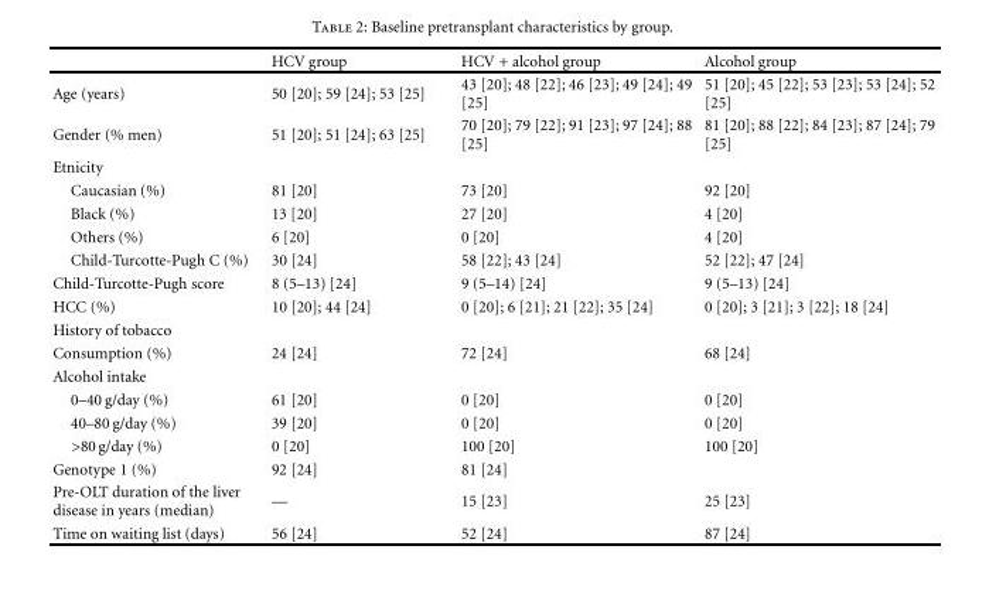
<table><thead><tr><td></td><td>HCV group</td><td>HCV + alcohol group</td><td>Alcohol group</td></tr></thead><tbody><tr><td>Age (years)</td><td>50 [20]; 59 [24]; 53 [25]</td><td>43 [20]; 48 [22]; 46 [23]; 49 [24]; 49 [25]</td><td>51 [20]; 45 [22]; 53 [23]; 53 [24]; 52 [25]</td></tr><tr><td>Gender (% men)</td><td>51 [20]; 51 [24]; 63 [25]</td><td>70 [20]; 79 [22]; 91 [23]; 97 [24]; 88 [25]</td><td>81 [20]; 88 [22]; 84 [23]; 87 [24]; 79 [25]</td></tr><tr><td colspan="4">Etnicity</td></tr><tr><td>Caucasian (%)</td><td>81 [20]</td><td>73 [20]</td><td>92 [20]</td></tr><tr><td>Black (%)</td><td>13 [20]</td><td>27 [20]</td><td>4 [20]</td></tr><tr><td>Others (%)</td><td>6 [20]</td><td>0 [20]</td><td>4 [20]</td></tr><tr><td>Child-Turcotte-Pugh C (%)</td><td>30 [24]</td><td>58 [22]; 43 [24]</td><td>52 [22]; 47 [24]</td></tr><tr><td>Child-Turcotte-Pugh score</td><td>8 (5–13) [24]</td><td>9 (5–14) [24]</td><td>9 (5–13) [24]</td></tr><tr><td>HCC (%)</td><td>10 [20]; 44 [24]</td><td>0 [20]; 6 [21]; 21 [22]; 35 [24]</td><td>0 [20]; 3 [21]; 3 [22]; 18 [24]</td></tr><tr><td colspan="4">History of tobacco</td></tr><tr><td>Consumption (%)</td><td>24 [24]</td><td>72 [24]</td><td>68 [24]</td></tr><tr><td colspan="4">Alcohol intake</td></tr><tr><td>0–40 g/day (%)</td><td>61 [20]</td><td>0 [20]</td><td>0 [20]</td></tr><tr><td>40–80 g/day (%)</td><td>39 [20]</td><td>0 [20]</td><td>0 [20]</td></tr><tr><td>&gt;80 g/day (%)</td><td>0 [20]</td><td>100 [20]</td><td>100 [20]</td></tr><tr><td>Genotype 1 (%)</td><td>92 [24]</td><td>81 [24]</td><td></td></tr><tr><td>Pre-OLT duration of the liver disease in years (median)</td><td>—</td><td>15 [23]</td><td>25 [23]</td></tr><tr><td>Time on waiting list (days)</td><td>56 [24]</td><td>52 [24]</td><td>87 [24]</td></tr></tbody></table>